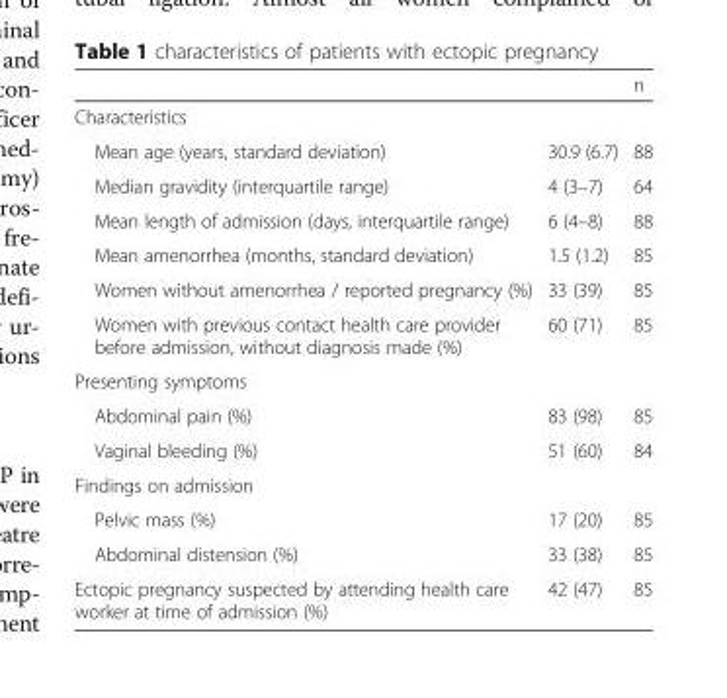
<table><thead><tr><td></td><td></td><td>n</td></tr></thead><tbody><tr><td colspan="3">Characteristics</td></tr><tr><td>Mean age (years, standard deviation)</td><td>30.9 (6.7)</td><td>88</td></tr><tr><td>Median gravidity (interquartile range)</td><td>4 (3–7)</td><td>64</td></tr><tr><td>Mean length of admission (days, interquartile range)</td><td>6 (4–8)</td><td>88</td></tr><tr><td>Mean amenorrhea (months, standard deviation)</td><td>1.5 (1.2)</td><td>85</td></tr><tr><td>Women without amenorrhea / reported pregnancy (%)</td><td>33 (39)</td><td>85</td></tr><tr><td>Women with previous contact health care provider before admission, without diagnosis made (%)</td><td>60 (71)</td><td>85</td></tr><tr><td colspan="3">Presenting symptoms</td></tr><tr><td>Abdominal pain (%)</td><td>83 (98)</td><td>85</td></tr><tr><td>Vaginal bleeding (%)</td><td>51 (60)</td><td>84</td></tr><tr><td colspan="3">Findings on admission</td></tr><tr><td>Pelvic mass (%)</td><td>17 (20)</td><td>85</td></tr><tr><td>Abdominal distension (%)</td><td>33 (38)</td><td>85</td></tr><tr><td>Ectopic pregnancy suspected by attending health care worker at time of admission (%)</td><td>42 (47)</td><td>85</td></tr></tbody></table>